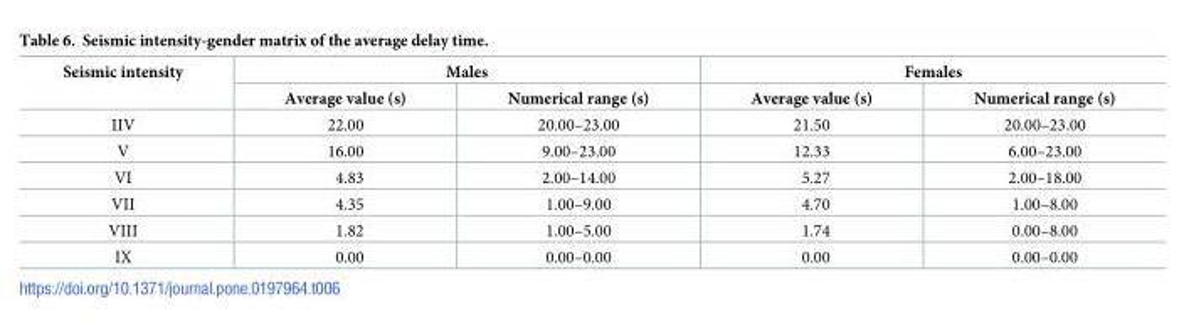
<table><thead><tr><td rowspan="2">Seismic intensity</td><td colspan="2">Males</td><td colspan="2">Females</td></tr><tr><td>Average value (s)</td><td>Numerical range (s)</td><td>Average value (s)</td><td>Numerical range (s)</td></tr></thead><tbody><tr><td>IIV</td><td>22.00</td><td>20.00–23.00</td><td>21.50</td><td>20.00–23.00</td></tr><tr><td>V</td><td>16.00</td><td>9.00–23.00</td><td>12.33</td><td>6.00–23.00</td></tr><tr><td>VI</td><td>4.83</td><td>2.00–14.00</td><td>5.27</td><td>2.00–18.00</td></tr><tr><td>VII</td><td>4.35</td><td>1.00–9.00</td><td>4.70</td><td>1.00–8.00</td></tr><tr><td>VIII</td><td>1.82</td><td>1.00–5.00</td><td>1.74</td><td>0.00–8.00</td></tr><tr><td>IX</td><td>0.00</td><td>0.00–0.00</td><td>0.00</td><td>0.00–0.00</td></tr></tbody></table>